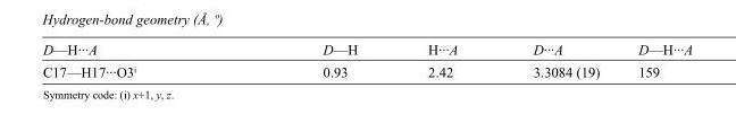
<table><tbody><tr><td>D—H···A</td><td>D—H</td><td>H···A</td><td>D···A</td><td>D—H···A</td></tr><tr><td>C17—H17···O3<sup>i</sup></td><td>0.93</td><td>2.42</td><td>3.3084 (19)</td><td>159</td></tr></tbody></table>